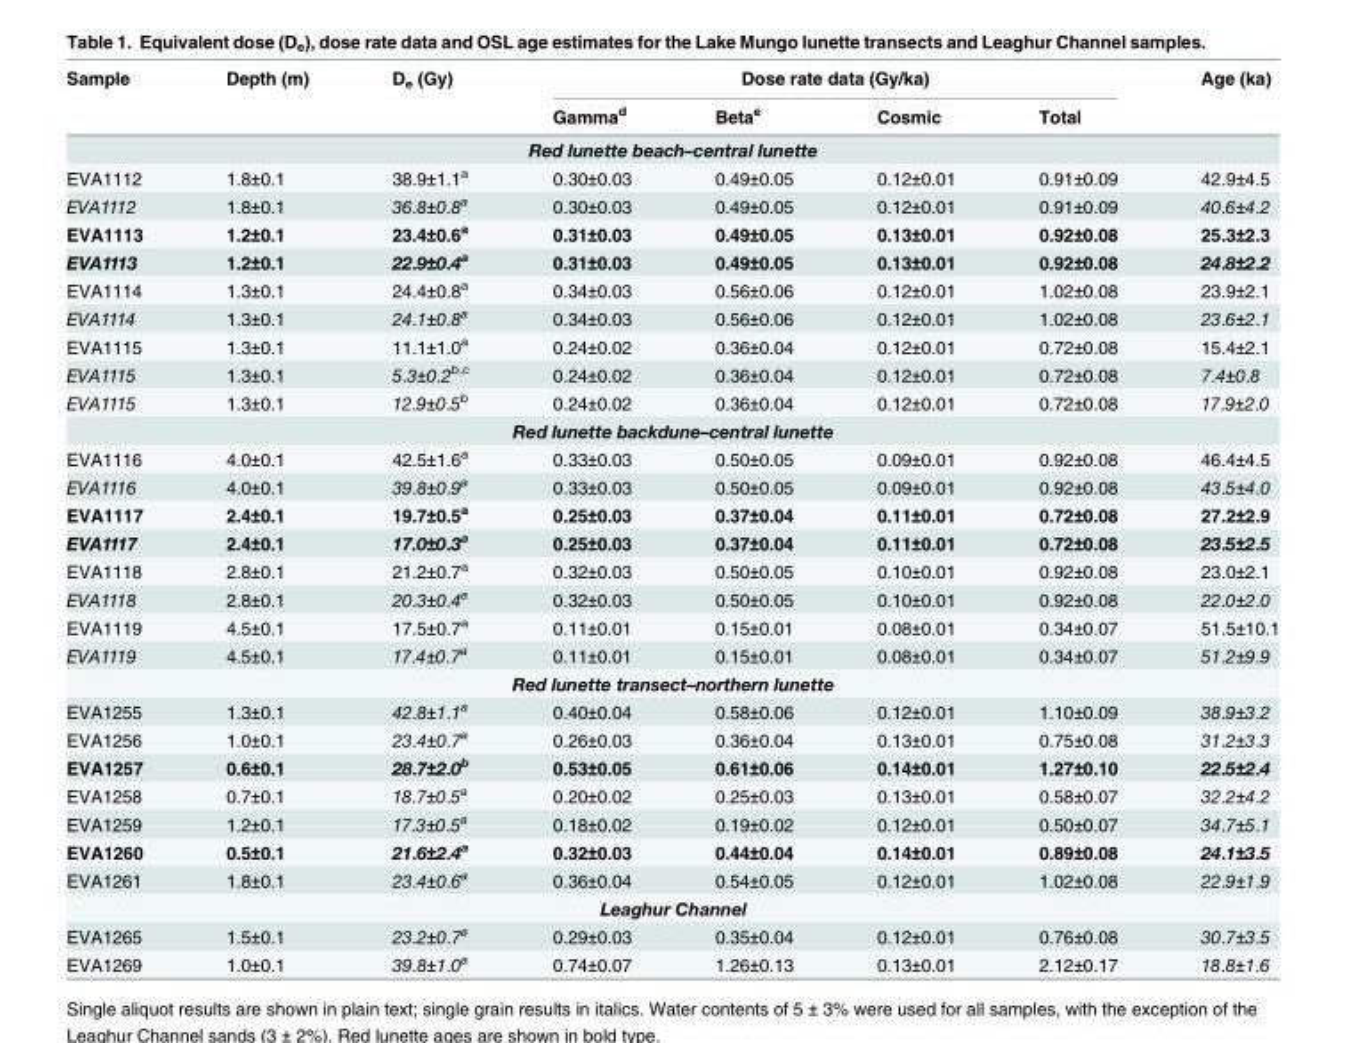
<table><thead><tr><td rowspan="2">Sample</td><td rowspan="2">Depth (m)</td><td rowspan="2">D<sub>e</sub> (Gy)</td><td colspan="4">Dose rate data (Gy/ka)</td><td rowspan="2">Age (ka)</td></tr><tr><td>Gamma<sup>d</sup></td><td>Beta<sup>e</sup></td><td>Cosmic</td><td>Total</td></tr></thead><tbody><tr><td colspan="8">Red lunette beach–central lunette</td></tr><tr><td>EVA1112</td><td>1.8±0.1</td><td>38.9±1.1<sup>a</sup></td><td>0.30±0.03</td><td>0.49±0.05</td><td>0.12±0.01</td><td>0.91±0.09</td><td>42.9±4.5</td></tr><tr><td>EVA1112</td><td>1.8±0.1</td><td>36.8±0.8<sup>a</sup></td><td>0.30±0.03</td><td>0.49±0.05</td><td>0.12±0.01</td><td>0.91±0.09</td><td>40.6±4.2</td></tr><tr><td>EVA1113</td><td>1.2±0.1</td><td>23.4±0.6<sup>a</sup></td><td>0.31±0.03</td><td>0.49±0.05</td><td>0.13±0.01</td><td>0.92±0.08</td><td>25.3±2.3</td></tr><tr><td>EVA1113</td><td>1.2±0.1</td><td>22.9±0.4<sup>a</sup></td><td>0.31±0.03</td><td>0.49±0.05</td><td>0.13±0.01</td><td>0.92±0.08</td><td>24.8±2.2</td></tr><tr><td>EVA1114</td><td>1.3±0.1</td><td>24.4±0.8<sup>a</sup></td><td>0.34±0.03</td><td>0.56±0.06</td><td>0.12±0.01</td><td>1.02±0.08</td><td>23.9±2.1</td></tr><tr><td>EVA1114</td><td>1.3±0.1</td><td>24.1±0.8<sup>a</sup></td><td>0.34±0.03</td><td>0.56±0.06</td><td>0.12±0.01</td><td>1.02±0.08</td><td>23.6±2.1</td></tr><tr><td>EVA1115</td><td>1.3±0.1</td><td>11.1±1.0<sup>a</sup></td><td>0.24±0.02</td><td>0.36±0.04</td><td>0.12±0.01</td><td>0.72±0.08</td><td>15.4±2.1</td></tr><tr><td>EVA1115</td><td>1.3±0.1</td><td>5.3±0.2<sup>b,c</sup></td><td>0.24±0.02</td><td>0.36±0.04</td><td>0.12±0.01</td><td>0.72±0.08</td><td>7.4±0.8</td></tr><tr><td>EVA1115</td><td>1.3±0.1</td><td>12.9±0.5<sup>b</sup></td><td>0.24±0.02</td><td>0.36±0.04</td><td>0.12±0.01</td><td>0.72±0.08</td><td>17.9±2.0</td></tr><tr><td colspan="8">Red lunette backdune–central lunette</td></tr><tr><td>EVA1116</td><td>4.0±0.1</td><td>42.5±1.6<sup>a</sup></td><td>0.33±0.03</td><td>0.50±0.05</td><td>0.09±0.01</td><td>0.92±0.08</td><td>46.4±4.5</td></tr><tr><td>EVA1116</td><td>4.0±0.1</td><td>39.8±0.9<sup>a</sup></td><td>0.33±0.03</td><td>0.50±0.05</td><td>0.09±0.01</td><td>0.92±0.08</td><td>43.5±4.0</td></tr><tr><td>EVA1117</td><td>2.4±0.1</td><td>19.7±0.5<sup>a</sup></td><td>0.25±0.03</td><td>0.37±0.04</td><td>0.11±0.01</td><td>0.72±0.08</td><td>27.2±2.9</td></tr><tr><td>EVA1117</td><td>2.4±0.1</td><td>17.0±0.3<sup>a</sup></td><td>0.25±0.03</td><td>0.37±0.04</td><td>0.11±0.01</td><td>0.72±0.08</td><td>23.5±2.5</td></tr><tr><td>EVA1118</td><td>2.8±0.1</td><td>21.2±0.7<sup>a</sup></td><td>0.32±0.03</td><td>0.50±0.05</td><td>0.10±0.01</td><td>0.92±0.08</td><td>23.0±2.1</td></tr><tr><td>EVA1118</td><td>2.8±0.1</td><td>20.3±0.4<sup>a</sup></td><td>0.32±0.03</td><td>0.50±0.05</td><td>0.10±0.01</td><td>0.92±0.08</td><td>22.0±2.0</td></tr><tr><td>EVA1119</td><td>4.5±0.1</td><td>17.5±0.7<sup>a</sup></td><td>0.11±0.01</td><td>0.15±0.01</td><td>0.08±0.01</td><td>0.34±0.07</td><td>51.5±10.1</td></tr><tr><td>EVA1119</td><td>4.5±0.1</td><td>17.4±0.7<sup>a</sup></td><td>0.11±0.01</td><td>0.15±0.01</td><td>0.08±0.01</td><td>0.34±0.07</td><td>51.2±9.9</td></tr><tr><td colspan="8">Red lunette transect–northern lunette</td></tr><tr><td>EVA1255</td><td>1.3±0.1</td><td>42.8±1.1<sup>a</sup></td><td>0.40±0.04</td><td>0.58±0.06</td><td>0.12±0.01</td><td>1.10±0.09</td><td>38.9±3.2</td></tr><tr><td>EVA1256</td><td>1.0±0.1</td><td>23.4±0.7<sup>a</sup></td><td>0.26±0.03</td><td>0.36±0.04</td><td>0.13±0.01</td><td>0.75±0.08</td><td>31.2±3.3</td></tr><tr><td>EVA1257</td><td>0.6±0.1</td><td>28.7±2.0<sup>b</sup></td><td>0.53±0.05</td><td>0.61±0.06</td><td>0.14±0.01</td><td>1.27±0.10</td><td>22.5±2.4</td></tr><tr><td>EVA1258</td><td>0.7±0.1</td><td>18.7±0.5<sup>a</sup></td><td>0.20±0.02</td><td>0.25±0.03</td><td>0.13±0.01</td><td>0.58±0.07</td><td>32.2±4.2</td></tr><tr><td>EVA1259</td><td>1.2±0.1</td><td>17.3±0.5<sup>a</sup></td><td>0.18±0.02</td><td>0.19±0.02</td><td>0.12±0.01</td><td>0.50±0.07</td><td>34.7±5.1</td></tr><tr><td>EVA1260</td><td>0.5±0.1</td><td>21.6±2.4<sup>a</sup></td><td>0.32±0.03</td><td>0.44±0.04</td><td>0.14±0.01</td><td>0.89±0.08</td><td>24.1±3.5</td></tr><tr><td>EVA1261</td><td>1.8±0.1</td><td>23.4±0.6<sup>a</sup></td><td>0.36±0.04</td><td>0.54±0.05</td><td>0.12±0.01</td><td>1.02±0.08</td><td>22.9±1.9</td></tr><tr><td colspan="8">Leaghur Channel</td></tr><tr><td>EVA1265</td><td>1.5±0.1</td><td>23.2±0.7<sup>a</sup></td><td>0.29±0.03</td><td>0.35±0.04</td><td>0.12±0.01</td><td>0.76±0.08</td><td>30.7±3.5</td></tr><tr><td>EVA1269</td><td>1.0±0.1</td><td>39.8±1.0<sup>a</sup></td><td>0.74±0.07</td><td>1.26±0.13</td><td>0.13±0.01</td><td>2.12±0.17</td><td>18.8±1.6</td></tr></tbody></table>